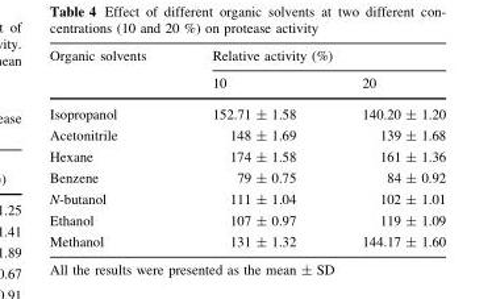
<table><thead><tr><td rowspan="2">Organic solvents</td><td colspan="2">Relative activity (%)</td></tr><tr><td>10</td><td>20</td></tr></thead><tbody><tr><td>Isopropanol</td><td>152.71 ± 1.58</td><td>140.20 ± 1.20</td></tr><tr><td>Acetonitrile</td><td>148 ± 1.69</td><td>139 ± 1.68</td></tr><tr><td>Hexane</td><td>174 ± 1.58</td><td>161 ± 1.36</td></tr><tr><td>Benzene</td><td>79 ± 0.75</td><td>84 ± 0.92</td></tr><tr><td>N-butanol</td><td>111 ± 1.04</td><td>102 ± 1.01</td></tr><tr><td>Ethanol</td><td>107 ± 0.97</td><td>119 ± 1.09</td></tr><tr><td>Methanol</td><td>131 ± 1.32</td><td>144.17 ± 1.60</td></tr></tbody></table>